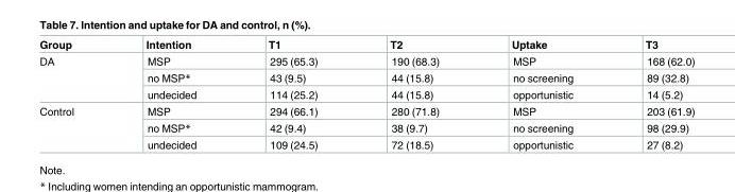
<table><thead><tr><td>Group</td><td>Intention</td><td>T1</td><td>T2</td><td>Uptake</td><td>T3</td></tr></thead><tbody><tr><td rowspan="3">DA</td><td>MSP</td><td>295 (65.3)</td><td>190 (68.3)</td><td>MSP</td><td>168 (62.0)</td></tr><tr><td>no MSP*</td><td>43 (9.5)</td><td>44 (15.8)</td><td>no screening</td><td>89 (32.8)</td></tr><tr><td>undecided</td><td>114 (25.2)</td><td>44 (15.8)</td><td>opportunistic</td><td>14 (5.2)</td></tr><tr><td rowspan="3">Control</td><td>MSP</td><td>294 (66.1)</td><td>280 (71.8)</td><td>MSP</td><td>203 (61.9)</td></tr><tr><td>no MSP*</td><td>42 (9.4)</td><td>38 (9.7)</td><td>no screening</td><td>98 (29.9)</td></tr><tr><td>undecided</td><td>109 (24.5)</td><td>72 (18.5)</td><td>opportunistic</td><td>27 (8.2)</td></tr></tbody></table>